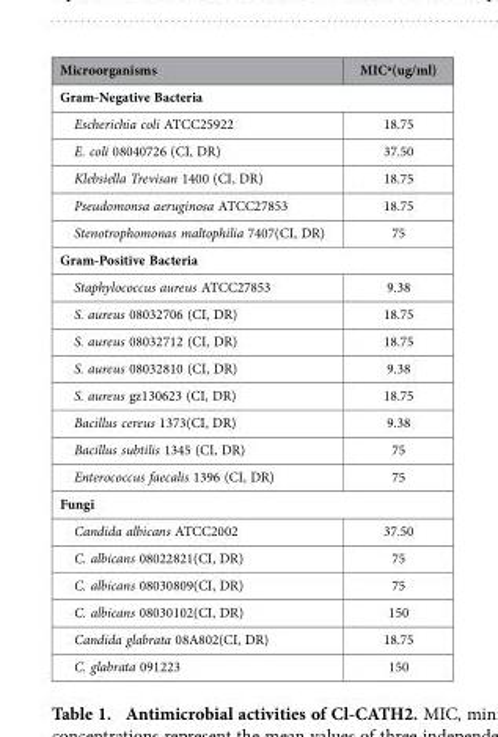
<table><thead><tr><td>Microorganisms</td><td>MICª(ug/ml)</td></tr></thead><tbody><tr><td colspan="2">Gram-Negative Bacteria</td></tr><tr><td>Escherichia coli ATCC25922</td><td>18.75</td></tr><tr><td>E. coli 08040726 (CI, DR)</td><td>37.50</td></tr><tr><td>Klebsiella Trevisan 1400 (CI, DR)</td><td>18.75</td></tr><tr><td>Pseudomonsa aeruginosa ATCC27853</td><td>18.75</td></tr><tr><td>Stenotrophomonas maltophilia 7407(CI, DR)</td><td>75</td></tr><tr><td colspan="2">Gram-Positive Bacteria</td></tr><tr><td>Staphylococcus aureus ATCC27853</td><td>9.38</td></tr><tr><td>S. aureus 08032706 (CI, DR)</td><td>18.75</td></tr><tr><td>S. aureus 08032712 (CI, DR)</td><td>18.75</td></tr><tr><td>S. aureus 08032810 (CI, DR)</td><td>9.38</td></tr><tr><td>S. aureus gz130623 (CI, DR)</td><td>18.75</td></tr><tr><td>Bacillus cereus 1373(CI, DR)</td><td>9.38</td></tr><tr><td>Bacillus subtilis 1345 (CI, DR)</td><td>75</td></tr><tr><td>Enterococcus faecalis 1396 (CI, DR)</td><td>75</td></tr><tr><td colspan="2">Fungi</td></tr><tr><td>Candida albicans ATCC2002</td><td>37.50</td></tr><tr><td>C. albicans 08022821(CI, DR)</td><td>75</td></tr><tr><td>C. albicans 08030809(CI, DR)</td><td>75</td></tr><tr><td>C. albicans 08030102(CI, DR)</td><td>150</td></tr><tr><td>Candida glabrata 08A802(CI, DR)</td><td>18.75</td></tr><tr><td>C. glabrata 091223</td><td>150</td></tr></tbody></table>